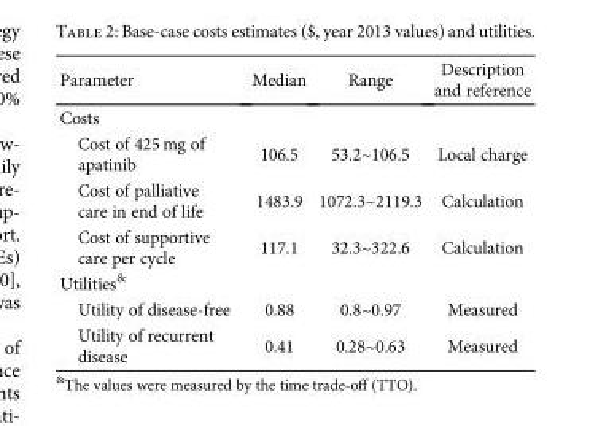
<table><thead><tr><td>Parameter</td><td>Median</td><td>Range</td><td>Description and reference</td></tr></thead><tbody><tr><td colspan="4">Costs</td></tr><tr><td>Cost of 425 mg of apatinib</td><td>106.5</td><td>53.2~106.5</td><td>Local charge</td></tr><tr><td>Cost of palliative care in end of life</td><td>1483.9</td><td>1072.3~2119.3</td><td>Calculation</td></tr><tr><td>Cost of supportive care per cycle</td><td>117.1</td><td>32.3~322.6</td><td>Calculation</td></tr><tr><td colspan="4">Utilities<sup>&amp;</sup></td></tr><tr><td>Utility of disease-free</td><td>0.88</td><td>0.8~0.97</td><td>Measured</td></tr><tr><td>Utility of recurrent disease</td><td>0.41</td><td>0.28~0.63</td><td>Measured</td></tr></tbody></table>